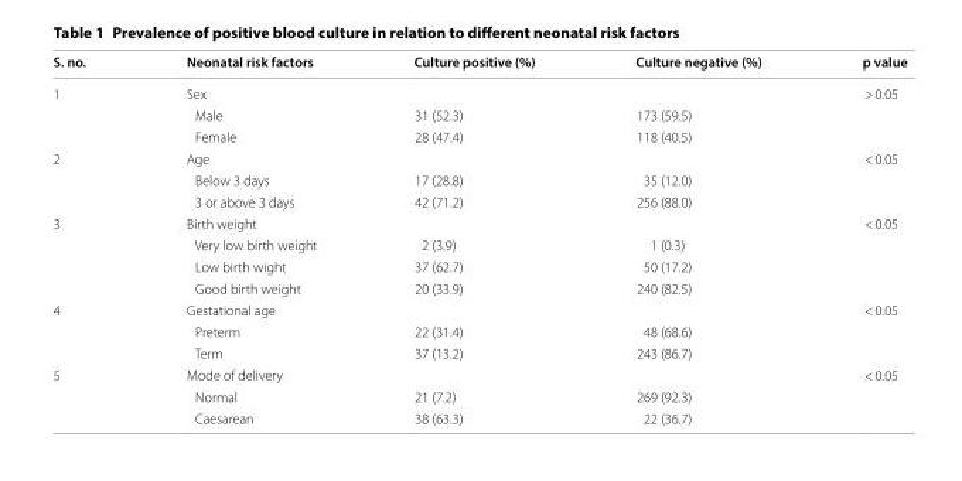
<table><thead><tr><td>S. no.</td><td>Neonatal risk factors</td><td>Culture positive (%)</td><td>Culture negative (%)</td><td>p value</td></tr></thead><tbody><tr><td rowspan="3">1</td><td colspan="3">Sex</td><td rowspan="3">&gt; 0.05</td></tr><tr><td>Male</td><td>31 (52.3)</td><td>173 (59.5)</td></tr><tr><td>Female</td><td>28 (47.4)</td><td>118 (40.5)</td></tr><tr><td rowspan="3">2</td><td colspan="3">Age</td><td rowspan="3">&lt; 0.05</td></tr><tr><td>Below 3 days</td><td>17 (28.8)</td><td>35 (12.0)</td></tr><tr><td>3 or above 3 days</td><td>42 (71.2)</td><td>256 (88.0)</td></tr><tr><td rowspan="4">3</td><td colspan="3">Birth weight</td><td rowspan="4">&lt; 0.05</td></tr><tr><td>Very low birth weight</td><td>2 (3.9)</td><td>1 (0.3)</td></tr><tr><td>Low birth wight</td><td>37 (62.7)</td><td>50 (17.2)</td></tr><tr><td>Good birth weight</td><td>20 (33.9)</td><td>240 (82.5)</td></tr><tr><td rowspan="3">4</td><td colspan="3">Gestational age</td><td rowspan="3">&lt; 0.05</td></tr><tr><td>Preterm</td><td>22 (31.4)</td><td>48 (68.6)</td></tr><tr><td>Term</td><td>37 (13.2)</td><td>243 (86.7)</td></tr><tr><td rowspan="3">5</td><td colspan="3">Mode of delivery</td><td rowspan="3">&lt; 0.05</td></tr><tr><td>Normal</td><td>21 (7.2)</td><td>269 (92.3)</td></tr><tr><td>Caesarean</td><td>38 (63.3)</td><td>22 (36.7)</td></tr></tbody></table>